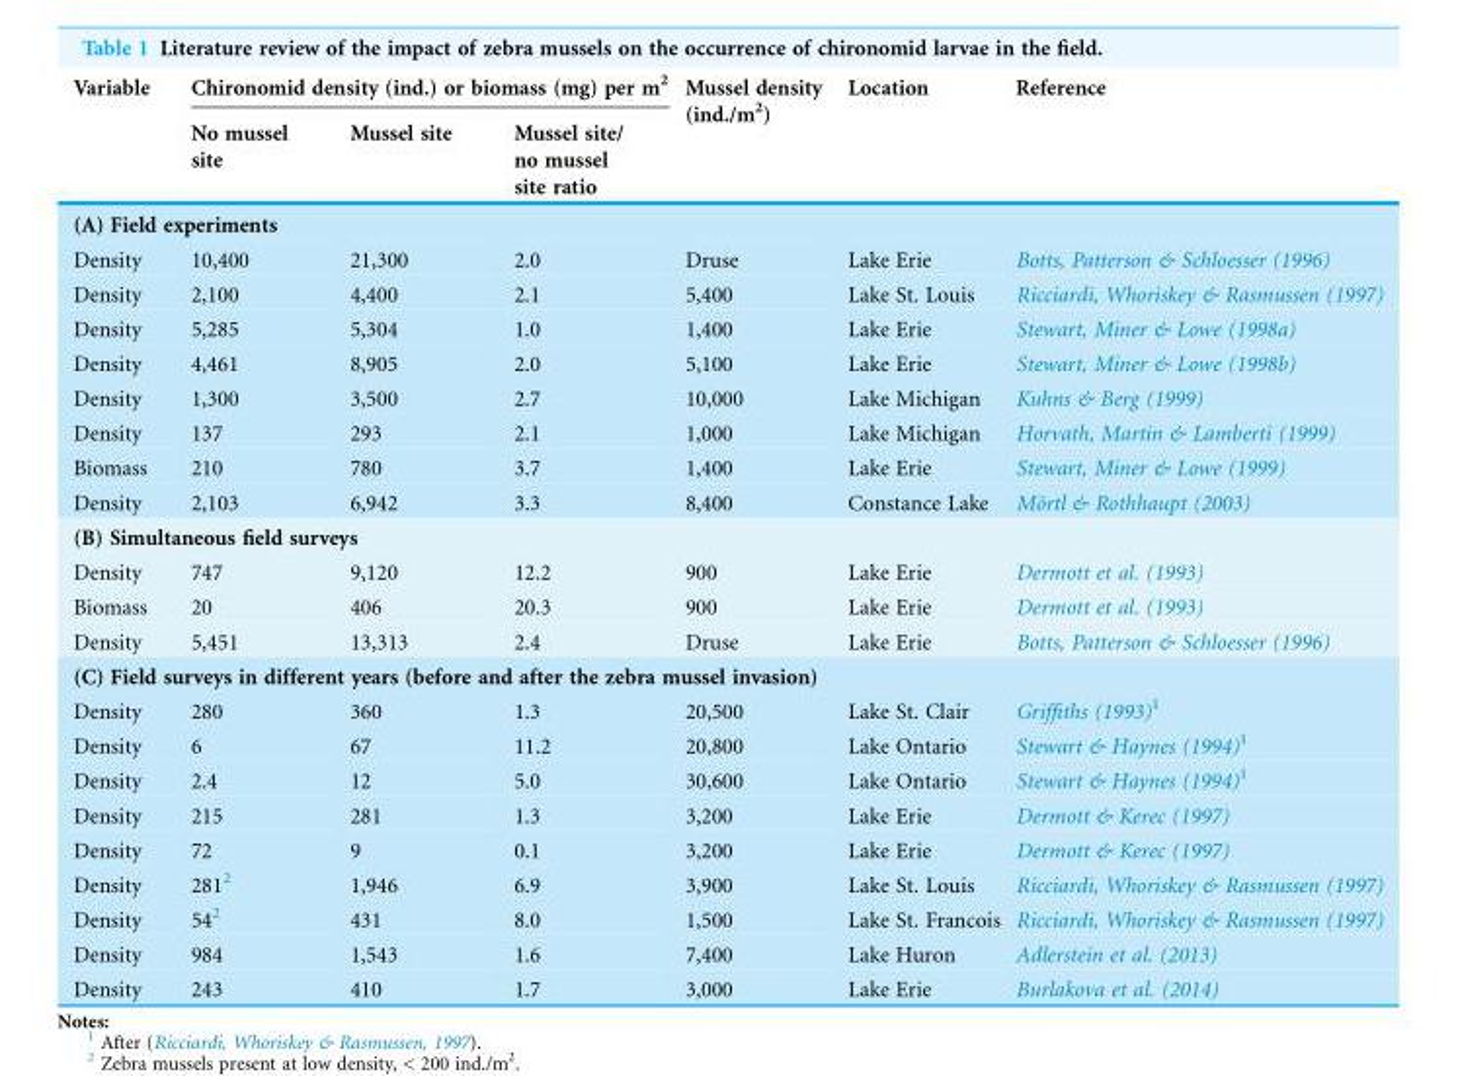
<table><thead><tr><td rowspan="2">Variable</td><td colspan="3">Chironomid density (ind.) or biomass (mg) per m<sup>2</sup></td><td rowspan="2">Mussel density (ind./m<sup>2</sup>)</td><td rowspan="2">Location</td><td rowspan="2">Reference</td></tr><tr><td>No mussel site</td><td>Mussel site</td><td>Mussel site/ no mussel site ratio</td></tr></thead><tbody><tr><td colspan="7">(A) Field experiments</td></tr><tr><td>Density</td><td>10,400</td><td>21,300</td><td>2.0</td><td>Druse</td><td>Lake Erie</td><td>Botts, Patterson &amp; Schloesser (1996)</td></tr><tr><td>Density</td><td>2,100</td><td>4,400</td><td>2.1</td><td>5,400</td><td>Lake St. Louis</td><td>Ricciardi, Whoriskey &amp; Rasmussen (1997)</td></tr><tr><td>Density</td><td>5,285</td><td>5,304</td><td>1.0</td><td>1,400</td><td>Lake Erie</td><td>Stewart, Miner &amp; Lowe (1998a)</td></tr><tr><td>Density</td><td>4,461</td><td>8,905</td><td>2.0</td><td>5,100</td><td>Lake Erie</td><td>Stewart, Miner &amp; Lowe (1998b)</td></tr><tr><td>Density</td><td>1,300</td><td>3,500</td><td>2.7</td><td>10,000</td><td>Lake Michigan</td><td>Kuhns &amp; Berg (1999)</td></tr><tr><td>Density</td><td>137</td><td>293</td><td>2.1</td><td>1,000</td><td>Lake Michigan</td><td>Horvath, Martin &amp; Lamberti (1999)</td></tr><tr><td>Biomass</td><td>210</td><td>780</td><td>3.7</td><td>1,400</td><td>Lake Erie</td><td>Stewart, Miner &amp; Lowe (1999)</td></tr><tr><td>Density</td><td>2,103</td><td>6,942</td><td>3.3</td><td>8,400</td><td>Constance Lake</td><td>Mo¨rtl &amp; Rothhaupt (2003)</td></tr><tr><td colspan="7">(B) Simultaneous field surveys</td></tr><tr><td>Density</td><td>747</td><td>9,120</td><td>12.2</td><td>900</td><td>Lake Erie</td><td>Dermott et al. (1993)</td></tr><tr><td>Biomass</td><td>20</td><td>406</td><td>20.3</td><td>900</td><td>Lake Erie</td><td>Dermott et al. (1993)</td></tr><tr><td>Density</td><td>5,451</td><td>13,313</td><td>2.4</td><td>Druse</td><td>Lake Erie</td><td>Botts, Patterson &amp; Schloesser (1996)</td></tr><tr><td colspan="7">(C) Field surveys in different years (before and after the zebra mussel invasion)</td></tr><tr><td>Density</td><td>280</td><td>360</td><td>1.3</td><td>20,500</td><td>Lake St. Clair</td><td>Griffiths (1993)<sup>1</sup></td></tr><tr><td>Density</td><td>6</td><td>67</td><td>11.2</td><td>20,800</td><td>Lake Ontario</td><td>Stewart &amp; Haynes (1994)<sup>1</sup></td></tr><tr><td>Density</td><td>2.4</td><td>12</td><td>5.0</td><td>30,600</td><td>Lake Ontario</td><td>Stewart &amp; Haynes (1994)<sup>1</sup></td></tr><tr><td>Density</td><td>215</td><td>281</td><td>1.3</td><td>3,200</td><td>Lake Erie</td><td>Dermott &amp; Kerec (1997)</td></tr><tr><td>Density</td><td>72</td><td>9</td><td>0.1</td><td>3,200</td><td>Lake Erie</td><td>Dermott &amp; Kerec (1997)</td></tr><tr><td>Density</td><td>281<sup>2</sup></td><td>1,946</td><td>6.9</td><td>3,900</td><td>Lake St. Louis</td><td>Ricciardi, Whoriskey &amp; Rasmussen (1997)</td></tr><tr><td>Density</td><td>54<sup>2</sup></td><td>431</td><td>8.0</td><td>1,500</td><td>Lake St. Francois</td><td>Ricciardi, Whoriskey &amp; Rasmussen (1997)</td></tr><tr><td>Density</td><td>984</td><td>1,543</td><td>1.6</td><td>7,400</td><td>Lake Huron</td><td>Adlerstein et al. (2013)</td></tr><tr><td>Density</td><td>243</td><td>410</td><td>1.7</td><td>3,000</td><td>Lake Erie</td><td>Burlakova et al. (2014)</td></tr></tbody></table>